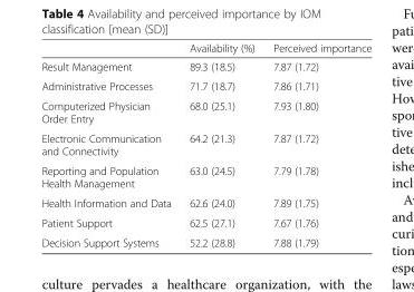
<table><thead><tr><td></td><td>Availability (%)</td><td>Perceived importance</td></tr></thead><tbody><tr><td>Result Management</td><td>89.3 (18.5)</td><td>7.87 (1.72)</td></tr><tr><td>Administrative Processes</td><td>71.7 (18.7)</td><td>7.86 (1.71)</td></tr><tr><td>Computerized Physician Order Entry</td><td>68.0 (25.1)</td><td>7.93 (1.80)</td></tr><tr><td>Electronic Communication and Connectivity</td><td>64.2 (21.3)</td><td>7.87 (1.72)</td></tr><tr><td>Reporting and Population Health Management</td><td>63.0 (24.5)</td><td>7.79 (1.78)</td></tr><tr><td>Health Information and Data</td><td>62.6 (24.0)</td><td>7.89 (1.75)</td></tr><tr><td>Patient Support</td><td>62.5 (27.1)</td><td>7.67 (1.76)</td></tr><tr><td>Decision Support Systems</td><td>52.2 (28.8)</td><td>7.88 (1.79)</td></tr></tbody></table>